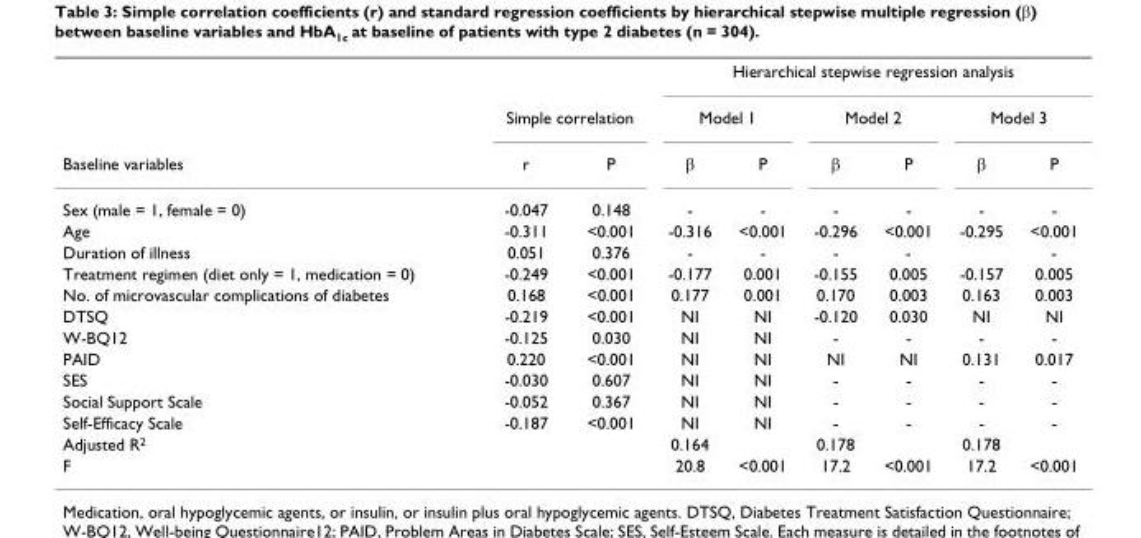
<table><thead><tr><td rowspan="3">Baseline variables</td><td></td><td></td><td colspan="6">Hierarchical stepwise regression analysis</td></tr><tr><td colspan="2">Simple correlation</td><td colspan="2">Model 1</td><td colspan="2">Model 2</td><td colspan="2">Model 3</td></tr><tr><td>r</td><td>P</td><td>β</td><td>P</td><td>β</td><td>P</td><td>β</td><td>P</td></tr></thead><tbody><tr><td>Sex (male = 1, female = 0)</td><td>-0.047</td><td>0.148</td><td>-</td><td>-</td><td>-</td><td>-</td><td>-</td><td>-</td></tr><tr><td>Age</td><td>-0.311</td><td>&lt;0.001</td><td>-0.316</td><td>&lt;0.001</td><td>-0.296</td><td>&lt;0.001</td><td>-0.295</td><td>&lt;0.001</td></tr><tr><td>Duration of illness</td><td>0.051</td><td>0.376</td><td>-</td><td>-</td><td>-</td><td>-</td><td></td><td>-</td></tr><tr><td>Treatment regimen (diet only = 1, medication = 0)</td><td>-0.249</td><td>&lt;0.001</td><td>-0.177</td><td>0.001</td><td>-0.155</td><td>0.005</td><td>-0.157</td><td>0.005</td></tr><tr><td>No. of microvascular complications of diabetes</td><td>0.168</td><td>&lt;0.001</td><td>0.177</td><td>0.001</td><td>0.170</td><td>0.003</td><td>0.163</td><td>0.003</td></tr><tr><td>DTSQ</td><td>-0.219</td><td>&lt;0.001</td><td>NI</td><td>NI</td><td>-0.120</td><td>0.030</td><td>NI</td><td>NI</td></tr><tr><td>W-BQ12</td><td>-0.125</td><td>0.030</td><td>NI</td><td>NI</td><td>-</td><td>-</td><td>-</td><td>-</td></tr><tr><td>PAID</td><td>0.220</td><td>&lt;0.001</td><td>NI</td><td>NI</td><td>NI</td><td>NI</td><td>0.131</td><td>0.017</td></tr><tr><td>SES</td><td>-0.030</td><td>0.607</td><td>NI</td><td>NI</td><td>-</td><td>-</td><td>-</td><td>-</td></tr><tr><td>Social Support Scale</td><td>-0.052</td><td>0.367</td><td>NI</td><td>NI</td><td>-</td><td>-</td><td>-</td><td>-</td></tr><tr><td>Self-Efficacy Scale</td><td>-0.187</td><td>&lt;0.001</td><td>NI</td><td>NI</td><td>-</td><td>-</td><td>-</td><td>-</td></tr><tr><td>Adjusted R<sup>2</sup></td><td></td><td></td><td>0.164</td><td></td><td>0.178</td><td></td><td>0.178</td><td></td></tr><tr><td>F</td><td></td><td></td><td>20.8</td><td>&lt;0.001</td><td>17.2</td><td>&lt;0.001</td><td>17.2</td><td>&lt;0.001</td></tr></tbody></table>